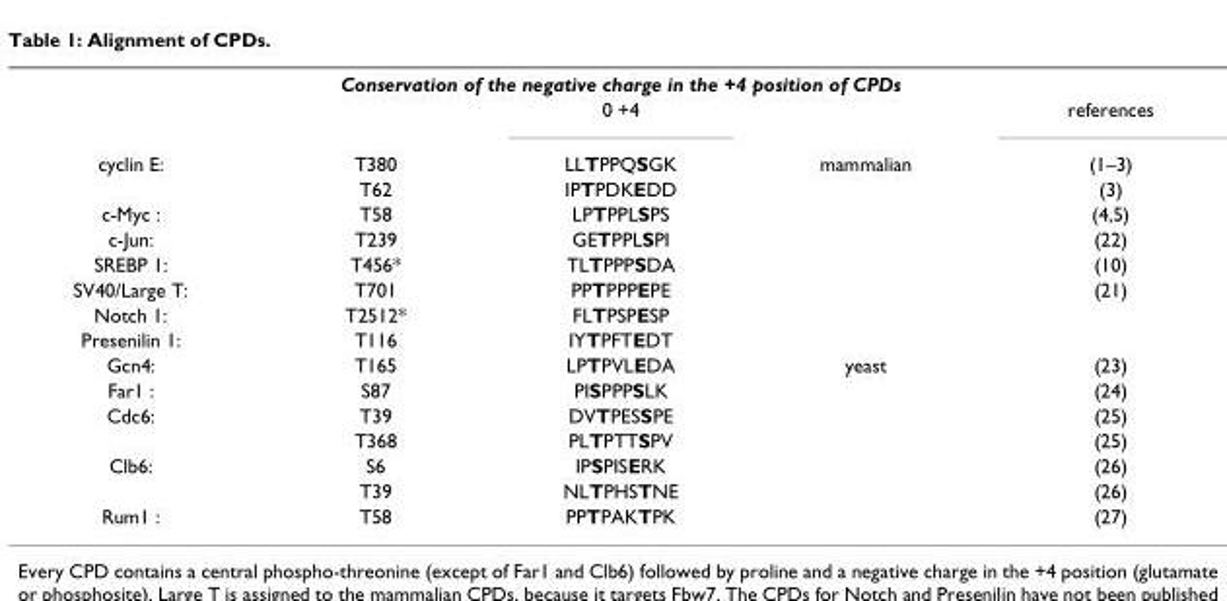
<table><tbody><tr><td colspan="5">Conservation of the negative charge in the +4 position of CPDs</td></tr><tr><td></td><td></td><td>0 +4</td><td></td><td>references</td></tr><tr><td rowspan="2">cyclin E:</td><td>T380</td><td>LLTPPQSGK</td><td>mammalian</td><td>(1–3)</td></tr><tr><td>T62</td><td>IPTPDKEDD</td><td></td><td>(3)</td></tr><tr><td>c-Myc :</td><td>T58</td><td>LPTPPLSPS</td><td></td><td>(4,5)</td></tr><tr><td>c-Jun:</td><td>T239</td><td>GETPPLSPI</td><td></td><td>(22)</td></tr><tr><td>SREBP 1:</td><td>T456*</td><td>TLTPPPSDA</td><td></td><td>(10)</td></tr><tr><td>SV40/Large T:</td><td>T701</td><td>PPTPPPEPE</td><td></td><td>(21)</td></tr><tr><td>Notch 1:</td><td>T2512*</td><td>FLTPSPESP</td><td></td><td></td></tr><tr><td>Presenilin 1:</td><td>T116</td><td>IYTPFTEDT</td><td></td><td></td></tr><tr><td>Gcn4:</td><td>T165</td><td>LPTPVLEDA</td><td>yeast</td><td>(23)</td></tr><tr><td>Far1 :</td><td>S87</td><td>PISPPPSLK</td><td></td><td>(24)</td></tr><tr><td rowspan="2">Cdc6:</td><td>T39</td><td>DVTPESSPE</td><td></td><td>(25)</td></tr><tr><td>T368</td><td>PLTPTTSPV</td><td></td><td>(25)</td></tr><tr><td rowspan="2">Clb6:</td><td>S6</td><td>IPSPISERK</td><td></td><td>(26)</td></tr><tr><td>T39</td><td>NLTPHSTNE</td><td></td><td>(26)</td></tr><tr><td>Rum1 :</td><td>T58</td><td>PPTPAKTPK</td><td></td><td>(27)</td></tr></tbody></table>